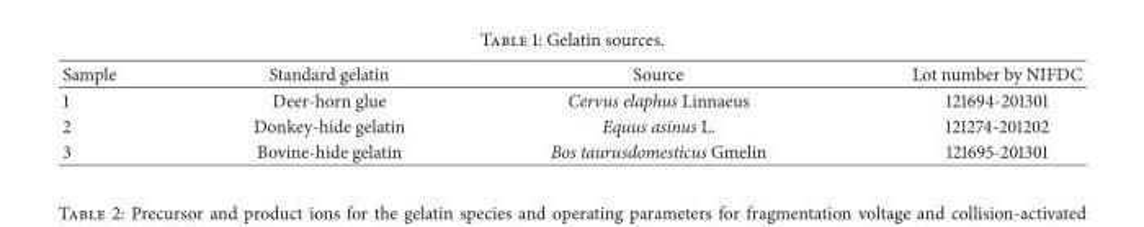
<table><thead><tr><td>Sample</td><td>Standard gelatin</td><td>Source</td><td>Lot number by NIFDC</td></tr></thead><tbody><tr><td>1</td><td>Deer-horn glue</td><td>Cervus elaphus Linnaeus</td><td>121694-201301</td></tr><tr><td>2</td><td>Donkey-hide gelatin</td><td>Equus asinus L.</td><td>121274-201202</td></tr><tr><td>3</td><td>Bovine-hide gelatin</td><td>Bos taurusdomesticus Gmelin</td><td>121695-201301</td></tr></tbody></table>